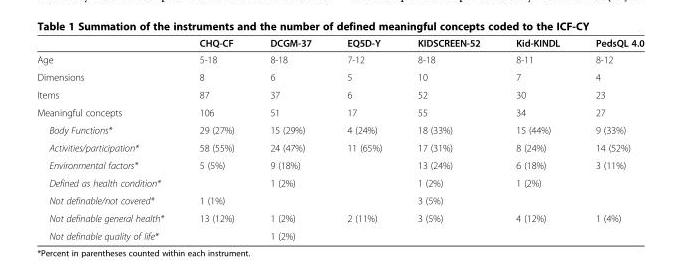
<table><thead><tr><td></td><td>CHQ-CF</td><td>DCGM-37</td><td>EQ5D-Y</td><td>KIDSCREEN-52</td><td>Kid-KINDL</td><td>PedsQL 4.0</td></tr></thead><tbody><tr><td>Age</td><td>5-18</td><td>8-18</td><td>7-12</td><td>8-18</td><td>8-11</td><td>8-12</td></tr><tr><td>Dimensions</td><td>8</td><td>6</td><td>5</td><td>10</td><td>7</td><td>4</td></tr><tr><td>Items</td><td>87</td><td>37</td><td>6</td><td>52</td><td>30</td><td>23</td></tr><tr><td>Meaningful concepts</td><td>106</td><td>51</td><td>17</td><td>55</td><td>34</td><td>27</td></tr><tr><td>Body Functions*</td><td>29 (27%)</td><td>15 (29%)</td><td>4 (24%)</td><td>18 (33%)</td><td>15 (44%)</td><td>9 (33%)</td></tr><tr><td>Activities/participation*</td><td>58 (55%)</td><td>24 (47%)</td><td>11 (65%)</td><td>17 (31%)</td><td>8 (24%)</td><td>14 (52%)</td></tr><tr><td>Environmental factors*</td><td>5 (5%)</td><td>9 (18%)</td><td></td><td>13 (24%)</td><td>6 (18%)</td><td>3 (11%)</td></tr><tr><td>Defined as health condition*</td><td></td><td>1 (2%)</td><td></td><td>1 (2%)</td><td>1 (2%)</td><td></td></tr><tr><td>Not definable/not covered*</td><td>1 (1%)</td><td></td><td></td><td>3 (5%)</td><td></td><td></td></tr><tr><td>Not definable general health*</td><td>13 (12%)</td><td>1 (2%)</td><td>2 (11%)</td><td>3 (5%)</td><td>4 (12%)</td><td>1 (4%)</td></tr><tr><td>Not definable quality of life*</td><td></td><td>1 (2%)</td><td></td><td></td><td></td><td></td></tr></tbody></table>